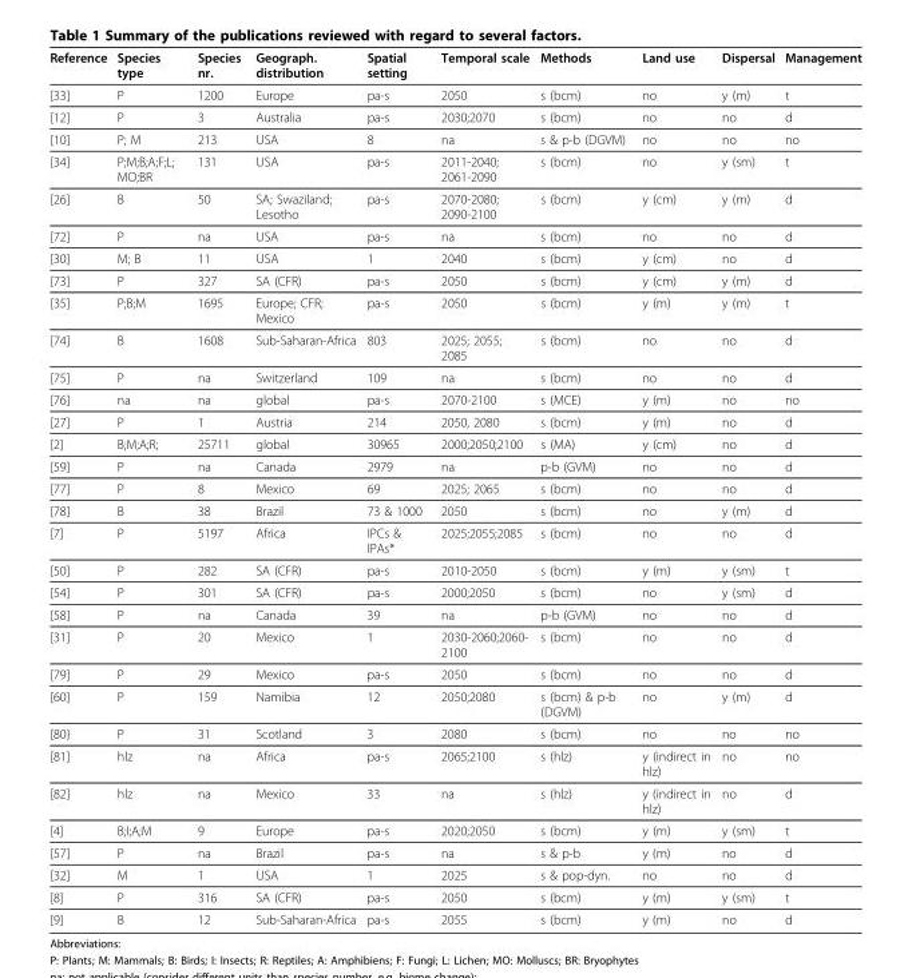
<table><thead><tr><td>Reference</td><td>Species type</td><td>Species nr.</td><td>Geograph. distribution</td><td>Spatial setting</td><td>Temporal scale</td><td>Methods</td><td>Land use</td><td>Dispersal</td><td>Management</td></tr></thead><tbody><tr><td>[33]</td><td>P</td><td>1200</td><td>Europe</td><td>pa-s</td><td>2050</td><td>s (bcm)</td><td>no</td><td>y (m)</td><td>t</td></tr><tr><td>[12]</td><td>P</td><td>3</td><td>Australia</td><td>pa-s</td><td>2030;2070</td><td>s (bcm)</td><td>no</td><td>no</td><td>d</td></tr><tr><td>[10]</td><td>P; M</td><td>213</td><td>USA</td><td>8</td><td>na</td><td>s &amp; p-b (DGVM)</td><td>no</td><td>no</td><td>no</td></tr><tr><td>[34]</td><td>P;M;B;A;F;L; MO;BR</td><td>131</td><td>USA</td><td>pa-s</td><td>2011-2040; 2061-2090</td><td>s (bcm)</td><td>no</td><td>y (sm)</td><td>t</td></tr><tr><td>[26]</td><td>B</td><td>50</td><td>SA; Swaziland; Lesotho</td><td>pa-s</td><td>2070-2080; 2090-2100</td><td>s (bcm)</td><td>y (cm)</td><td>y (m)</td><td>d</td></tr><tr><td>[72]</td><td>P</td><td>na</td><td>USA</td><td>pa-s</td><td>na</td><td>s (bcm)</td><td>no</td><td>no</td><td>d</td></tr><tr><td>[30]</td><td>M; B</td><td>11</td><td>USA</td><td>1</td><td>2040</td><td>s (bcm)</td><td>y (cm)</td><td>no</td><td>d</td></tr><tr><td>[73]</td><td>P</td><td>327</td><td>SA (CFR)</td><td>pa-s</td><td>2050</td><td>s (bcm)</td><td>y (cm)</td><td>y (m)</td><td>d</td></tr><tr><td>[35]</td><td>P;B;M</td><td>1695</td><td>Europe; CFR; Mexico</td><td>pa-s</td><td>2050</td><td>s (bcm)</td><td>y (m)</td><td>y (m)</td><td>t</td></tr><tr><td>[74]</td><td>B</td><td>1608</td><td>Sub-Saharan-Africa</td><td>803</td><td>2025; 2055; 2085</td><td>s (bcm)</td><td>no</td><td>no</td><td>d</td></tr><tr><td>[75]</td><td>P</td><td>na</td><td>Switzerland</td><td>109</td><td>na</td><td>s (bcm)</td><td>no</td><td>no</td><td>d</td></tr><tr><td>[76]</td><td>na</td><td>na</td><td>global</td><td>pa-s</td><td>2070-2100</td><td>s (MCE)</td><td>y (m)</td><td>no</td><td>no</td></tr><tr><td>[27]</td><td>P</td><td>1</td><td>Austria</td><td>214</td><td>2050, 2080</td><td>s (bcm)</td><td>y (m)</td><td>no</td><td>d</td></tr><tr><td>[2]</td><td>B;M;A;R;</td><td>25711</td><td>global</td><td>30965</td><td>2000;2050;2100</td><td>s (MA)</td><td>y (cm)</td><td>no</td><td>d</td></tr><tr><td>[59]</td><td>P</td><td>na</td><td>Canada</td><td>2979</td><td>na</td><td>p-b (GVM)</td><td>no</td><td>no</td><td>d</td></tr><tr><td>[77]</td><td>P</td><td>8</td><td>Mexico</td><td>69</td><td>2025; 2065</td><td>s (bcm)</td><td>no</td><td>no</td><td>d</td></tr><tr><td>[78]</td><td>B</td><td>38</td><td>Brazil</td><td>73 &amp; 1000</td><td>2050</td><td>s (bcm)</td><td>no</td><td>y (m)</td><td>d</td></tr><tr><td>[7]</td><td>P</td><td>5197</td><td>Africa</td><td>IPCs &amp; IPAs*</td><td>2025;2055;2085</td><td>s (bcm)</td><td>no</td><td>no</td><td>d</td></tr><tr><td>[50]</td><td>P</td><td>282</td><td>SA (CFR)</td><td>pa-s</td><td>2010-2050</td><td>s (bcm)</td><td>y (m)</td><td>y (sm)</td><td>t</td></tr><tr><td>[54]</td><td>P</td><td>301</td><td>SA (CFR)</td><td>pa-s</td><td>2000;2050</td><td>s (bcm)</td><td>no</td><td>y (sm)</td><td>d</td></tr><tr><td>[58]</td><td>P</td><td>na</td><td>Canada</td><td>39</td><td>na</td><td>p-b (GVM)</td><td>no</td><td>no</td><td>d</td></tr><tr><td>[31]</td><td>P</td><td>20</td><td>Mexico</td><td>1</td><td>2030-2060;2060- 2100</td><td>s (bcm)</td><td>no</td><td>no</td><td>d</td></tr><tr><td>[79]</td><td>P</td><td>29</td><td>Mexico</td><td>pa-s</td><td>2050</td><td>s (bcm)</td><td>no</td><td>no</td><td>d</td></tr><tr><td>[60]</td><td>P</td><td>159</td><td>Namibia</td><td>12</td><td>2050;2080</td><td>s (bcm) &amp; p-b (DGVM)</td><td>no</td><td>y (m)</td><td>d</td></tr><tr><td>[80}</td><td>P</td><td>31</td><td>Scotland</td><td>3</td><td>2080</td><td>s (bcm)</td><td>no</td><td>no</td><td>no</td></tr><tr><td>[81]</td><td>hlz</td><td>na</td><td>Africa</td><td>pa-s</td><td>2065;2100</td><td>s (hlz)</td><td>y (indirect in hlz)</td><td>no</td><td>no</td></tr><tr><td>[82]</td><td>hlz</td><td>na</td><td>Mexico</td><td>33</td><td>na</td><td>s (hlz)</td><td>y (indirect in hlz)</td><td>no</td><td>d</td></tr><tr><td>[4]</td><td>B;I;A;M</td><td>9</td><td>Europe</td><td>pa-s</td><td>2020;2050</td><td>s (bcm)</td><td>y (m)</td><td>y (sm)</td><td>t</td></tr><tr><td>[57]</td><td>P</td><td>na</td><td>Brazil</td><td>pa-s</td><td>na</td><td>s &amp; p-b</td><td>y (m)</td><td>no</td><td>d</td></tr><tr><td>[32]</td><td>M</td><td>1</td><td>USA</td><td>1</td><td>2025</td><td>s &amp; pop-dyn.</td><td>no</td><td>no</td><td>d</td></tr><tr><td>[8]</td><td>P</td><td>316</td><td>SA (CFR)</td><td>pa-s</td><td>2050</td><td>s (bcm)</td><td>y (m)</td><td>y (sm)</td><td>t</td></tr><tr><td>[9]</td><td>B</td><td>12</td><td>Sub-Saharan-Africa</td><td>pa-s</td><td>2055</td><td>s (bcm)</td><td>y (m)</td><td>no</td><td>d</td></tr></tbody></table>